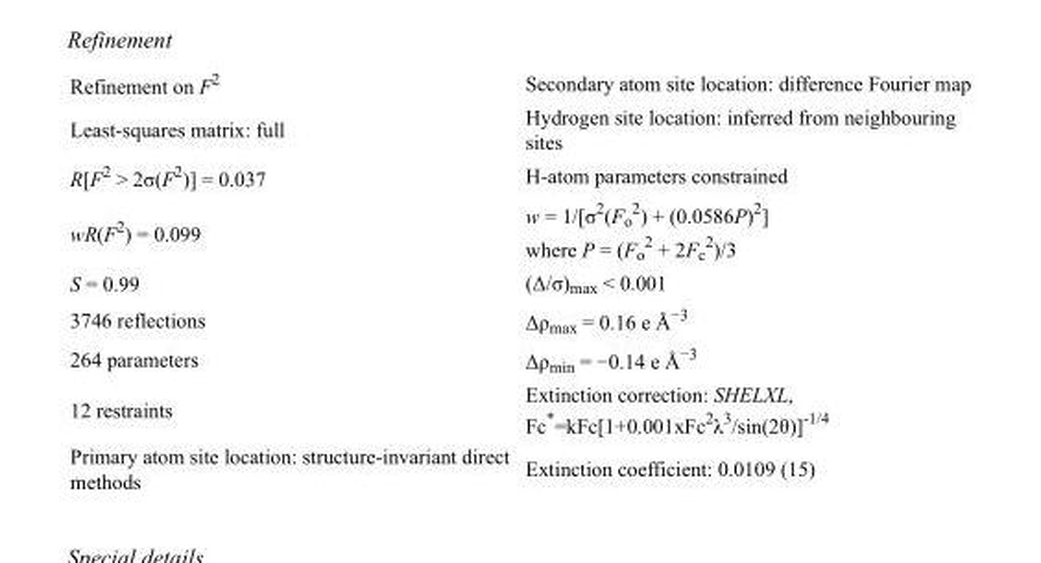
<table><tbody><tr><td>Refinement on F<sup>2</sup></td><td>Secondary atom site location: difference Fourier map</td></tr><tr><td>Least-squares matrix: full</td><td>Hydrogen site location: inferred from neighbouring sites</td></tr><tr><td>R[F<sup>2</sup> &gt; 2σ(F<sup>2</sup>)] = 0.037</td><td>H-atom parameters constrained</td></tr><tr><td>wR(F<sup>2</sup>) = 0.099</td><td>w = 1/[σ<sup>2</sup>(F<sub>o</sub> <sup>2</sup>) + (0.0586P)<sup>2</sup>] where P = (F<sub>o</sub> <sup>2</sup> + 2F<sub>c</sub> <sup>2</sup>)/3</td></tr><tr><td>S = 0.99</td><td>(Δ/σ)<sub>max</sub> &lt; 0.001</td></tr><tr><td>3746 reflections</td><td>Δρ<sub>max</sub> = 0.16 e Å<sup>−3</sup></td></tr><tr><td>264 parameters</td><td>Δρ<sub>min</sub> = −0.14 e Å<sup>−3</sup></td></tr><tr><td>12 restraints</td><td>Extinction correction: SHELXL, Fc*=kFc[1+0.001xFc<sup>2</sup>λ<sup>3</sup>/sin(2θ)]<sup>-1/4</sup></td></tr><tr><td>Primary atom site location: structure-invariant direct methods</td><td>Extinction coefficient: 0.0109 (15)</td></tr></tbody></table>